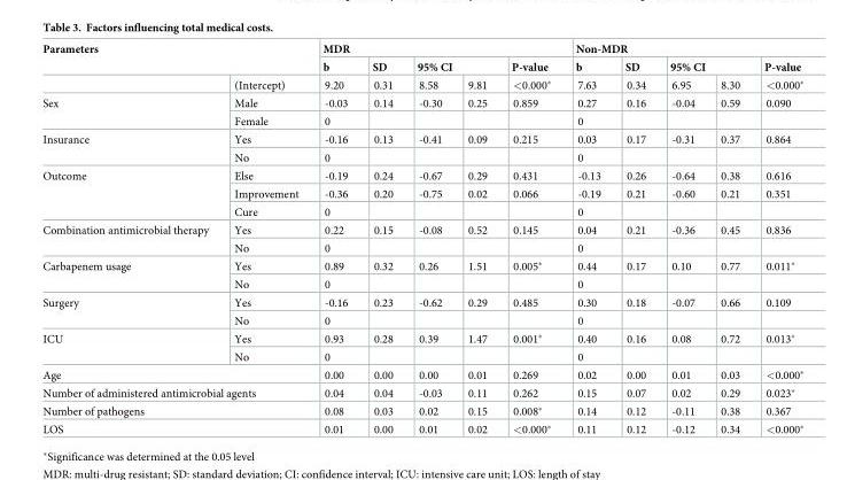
<table><thead><tr><td rowspan="2" colspan="2">Parameters</td><td colspan="5">MDR</td><td colspan="5">Non-MDR</td></tr><tr><td rowspan="2">b 9.20</td><td rowspan="2">SD 0.31</td><td colspan="2">95% CI</td><td rowspan="2">P-value &lt;0.000*</td><td rowspan="2">b 7.63</td><td rowspan="2">SD 0.34</td><td colspan="2">95% CI</td><td rowspan="2">P-value &lt;0.000*</td></tr><tr><td></td><td>(Intercept)</td><td>8.58</td><td>9.81</td><td>6.95</td><td>8.30</td></tr></thead><tbody><tr><td rowspan="2">Sex</td><td>Male</td><td>-0.03</td><td>0.14</td><td>-0.30</td><td>0.25</td><td>0.859</td><td>0.27</td><td>0.16</td><td>-0.04</td><td>0.59</td><td>0.090</td></tr><tr><td>Female</td><td>0</td><td></td><td></td><td></td><td></td><td>0</td><td></td><td></td><td></td><td></td></tr><tr><td rowspan="2">Insurance</td><td>Yes</td><td>-0.16</td><td>0.13</td><td>-0.41</td><td>0.09</td><td>0.215</td><td>0.03</td><td>0.17</td><td>-0.31</td><td>0.37</td><td>0.864</td></tr><tr><td>No</td><td>0</td><td></td><td></td><td></td><td></td><td>0</td><td></td><td></td><td></td><td></td></tr><tr><td rowspan="3">Outcome</td><td>Else</td><td>-0.19</td><td>0.24</td><td>-0.67</td><td>0.29</td><td>0.431</td><td>-0.13</td><td>0.26</td><td>-0.64</td><td>0.38</td><td>0.616</td></tr><tr><td>Improvement</td><td>-0.36</td><td>0.20</td><td>-0.75</td><td>0.02</td><td>0.066</td><td>-0.19</td><td>0.21</td><td>-0.60</td><td>0.21</td><td>0.351</td></tr><tr><td>Cure</td><td>0</td><td></td><td></td><td></td><td></td><td>0</td><td></td><td></td><td></td><td></td></tr><tr><td rowspan="2">Combination antimicrobial therapy</td><td>Yes</td><td>0.22</td><td>0.15</td><td>-0.08</td><td>0.52</td><td>0.145</td><td>0.04</td><td>0.21</td><td>-0.36</td><td>0.45</td><td>0.836</td></tr><tr><td>No</td><td>0</td><td></td><td></td><td></td><td></td><td>0</td><td></td><td></td><td></td><td></td></tr><tr><td rowspan="2">Carbapenem usage</td><td>Yes</td><td>0.89</td><td>0.32</td><td>0.26</td><td>1.51</td><td>0.005*</td><td>0.44</td><td>0.17</td><td>0.10</td><td>0.77</td><td>0.011*</td></tr><tr><td>No</td><td>0</td><td></td><td></td><td></td><td></td><td>0</td><td></td><td></td><td></td><td></td></tr><tr><td rowspan="2">Surgery</td><td>Yes</td><td>-0.16</td><td>0.23</td><td>-0.62</td><td>0.29</td><td>0.485</td><td>0.30</td><td>0.18</td><td>-0.07</td><td>0.66</td><td>0.109</td></tr><tr><td>No</td><td>0</td><td></td><td></td><td></td><td></td><td>0</td><td></td><td></td><td></td><td></td></tr><tr><td rowspan="2">ICU</td><td>Yes</td><td>0.93</td><td>0.28</td><td>0.39</td><td>1.47</td><td>0.001*</td><td>0.40</td><td>0.16</td><td>0.08</td><td>0.72</td><td>0.013*</td></tr><tr><td>No</td><td>0</td><td></td><td></td><td></td><td></td><td>0</td><td></td><td></td><td></td><td></td></tr><tr><td colspan="2">Age</td><td>0.00</td><td>0.00</td><td>0.00</td><td>0.01</td><td>0.269</td><td>0.02</td><td>0.00</td><td>0.01</td><td>0.03</td><td>&lt;0.000*</td></tr><tr><td colspan="2">Number of administered antimicrobial agents</td><td>0.04</td><td>0.04</td><td>-0.03</td><td>0.11</td><td>0.262</td><td>0.15</td><td>0.07</td><td>0.02</td><td>0.29</td><td>0.023*</td></tr><tr><td colspan="2">Number of pathogens</td><td>0.08</td><td>0.03</td><td>0.02</td><td>0.15</td><td>0.008*</td><td>0.14</td><td>0.12</td><td>-0.11</td><td>0.38</td><td>0.367</td></tr><tr><td colspan="2">LOS</td><td>0.01</td><td>0.00</td><td>0.01</td><td>0.02</td><td>&lt;0.000*</td><td>0.11</td><td>0.12</td><td>-0.12</td><td>0.34</td><td>&lt;0.000*</td></tr></tbody></table>